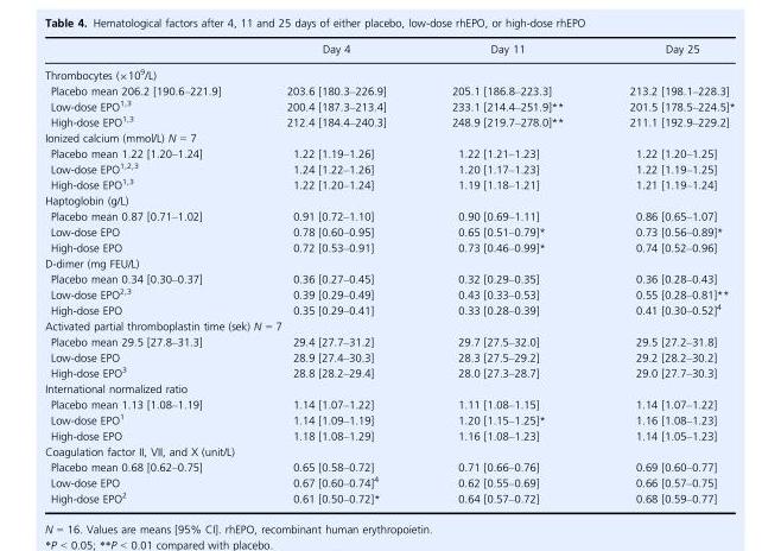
<table><thead><tr><td></td><td>Day 4</td><td>Day 11</td><td>Day 25</td></tr></thead><tbody><tr><td colspan="4">Thrombocytes (×10<sup>9</sup>/L)</td></tr><tr><td>Placebo mean 206.2 [190.6–221.9]</td><td>203.6 [180.3–226.9]</td><td>205.1 [186.8–223.3]</td><td>213.2 [198.1–228.3]</td></tr><tr><td>Low-dose EPO<sup>1,</sup>3</td><td>200.4 [187.3–213.4]</td><td>233.1 [214.4–251.9]**</td><td>201.5 [178.5–224.5]*</td></tr><tr><td>High-dose EPO<sup>1,</sup>3</td><td>212.4 [184.4–240.3]</td><td>248.9 [219.7–278.0]**</td><td>211.1 [192.9–229.2]</td></tr><tr><td colspan="4">Ionized calcium (mmol/L) N = 7</td></tr><tr><td>Placebo mean 1.22 [1.20–1.24]</td><td>1.22 [1.19–1.26]</td><td>1.22 [1.21–1.23]</td><td>1.22 [1.20–1.25]</td></tr><tr><td>Low-dose EPO<sup>1,</sup>2<sup>,</sup>3</td><td>1.24 [1.22–1.26]</td><td>1.20 [1.17–1.23]</td><td>1.22 [1.19–1.25]</td></tr><tr><td>High-dose EPO<sup>1,</sup>3</td><td>1.22 [1.20–1.24]</td><td>1.19 [1.18–1.21]</td><td>1.21 [1.19–1.24]</td></tr><tr><td colspan="4">Haptoglobin (g/L)</td></tr><tr><td>Placebo mean 0.87 [0.71–1.02]</td><td>0.91 [0.72–1.10]</td><td>0.90 [0.69–1.11]</td><td>0.86 [0.65–1.07]</td></tr><tr><td>Low-dose EPO</td><td>0.78 [0.60–0.95]</td><td>0.65 [0.51–0.79]*</td><td>0.73 [0.56–0.89]*</td></tr><tr><td>High-dose EPO</td><td>0.72 [0.53–0.91]</td><td>0.73 [0.46–0.99]*</td><td>0.74 [0.52–0.96]</td></tr><tr><td colspan="4">D-dimer (mg FEU/L)</td></tr><tr><td>Placebo mean 0.34 [0.30–0.37]</td><td>0.36 [0.27–0.45]</td><td>0.32 [0.29–0.35]</td><td>0.36 [0.28–0.43]</td></tr><tr><td>Low-dose EPO<sup>2,</sup>3</td><td>0.39 [0.29–0.49]</td><td>0.43 [0.33–0.53]</td><td>0.55 [0.28–0.81]**</td></tr><tr><td>High-dose EPO</td><td>0.35 [0.29–0.41]</td><td>0.33 [0.28–0.39]</td><td>0.41 [0.30–0.52]<sup>4</sup></td></tr><tr><td colspan="4">Activated partial thromboplastin time (sek) N = 7</td></tr><tr><td>Placebo mean 29.5 [27.8–31.3]</td><td>29.4 [27.7–31.2]</td><td>29.7 [27.5–32.0]</td><td>29.5 [27.2–31.8]</td></tr><tr><td>Low-dose EPO</td><td>28.9 [27.4–30.3]</td><td>28.3 [27.5–29.2]</td><td>29.2 [28.2–30.2]</td></tr><tr><td>High-dose EPO<sup>3</sup></td><td>28.8 [28.2–29.4]</td><td>28.0 [27.3–28.7]</td><td>29.0 [27.7–30.3]</td></tr><tr><td colspan="4">International normalized ratio</td></tr><tr><td>Placebo mean 1.13 [1.08–1.19]</td><td>1.14 [1.07–1.22]</td><td>1.11 [1.08–1.15]</td><td>1.14 [1.07–1.22]</td></tr><tr><td>Low-dose EPO<sup>1</sup></td><td>1.14 [1.09–1.19]</td><td>1.20 [1.15–1.25]*</td><td>1.16 [1.08–1.23]</td></tr><tr><td>High-dose EPO</td><td>1.18 [1.08–1.29]</td><td>1.16 [1.08–1.23]</td><td>1.14 [1.05–1.23]</td></tr><tr><td colspan="4">Coagulation factor II, VII, and X (unit/L)</td></tr><tr><td>Placebo mean 0.68 [0.62–0.75]</td><td>0.65 [0.58–0.72]</td><td>0.71 [0.66–0.76]</td><td>0.69 [0.60–0.77]</td></tr><tr><td>Low-dose EPO</td><td>0.67 [0.60–0.74]<sup>4</sup></td><td>0.62 [0.55–0.69]</td><td>0.66 [0.57–0.75]</td></tr><tr><td>High-dose EPO<sup>2</sup></td><td>0.61 [0.50–0.72]*</td><td>0.64 [0.57–0.72]</td><td>0.68 [0.59–0.77]</td></tr></tbody></table>